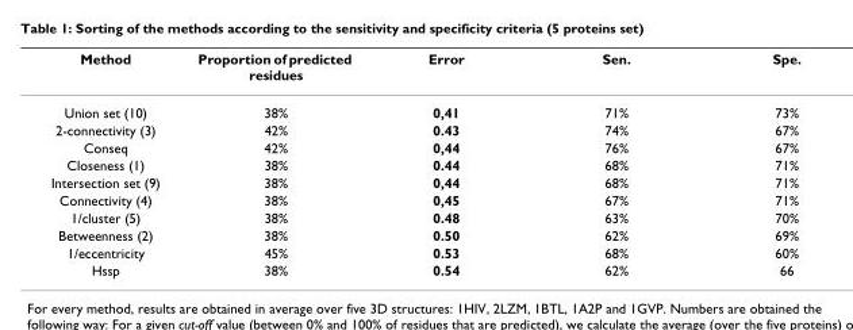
<table><thead><tr><td>Method</td><td>Proportion of predicted residues</td><td>Error</td><td>Sen.</td><td>Spe.</td></tr></thead><tbody><tr><td>Union set (10)</td><td>38%</td><td>0,41</td><td>71%</td><td>73%</td></tr><tr><td>2-connectivity (3)</td><td>42%</td><td>0.43</td><td>74%</td><td>67%</td></tr><tr><td>Conseq</td><td>42%</td><td>0,44</td><td>76%</td><td>67%</td></tr><tr><td>Closeness (1)</td><td>38%</td><td>0.44</td><td>68%</td><td>71%</td></tr><tr><td>Intersection set (9)</td><td>38%</td><td>0,44</td><td>68%</td><td>71%</td></tr><tr><td>Connectivity (4)</td><td>38%</td><td>0,45</td><td>67%</td><td>71%</td></tr><tr><td>1/cluster (5)</td><td>38%</td><td>0.48</td><td>63%</td><td>70%</td></tr><tr><td>Betweenness (2)</td><td>38%</td><td>0.50</td><td>62%</td><td>69%</td></tr><tr><td>1/eccentricity</td><td>45%</td><td>0.53</td><td>68%</td><td>60%</td></tr><tr><td>Hssp</td><td>38%</td><td>0.54</td><td>62%</td><td>66</td></tr></tbody></table>